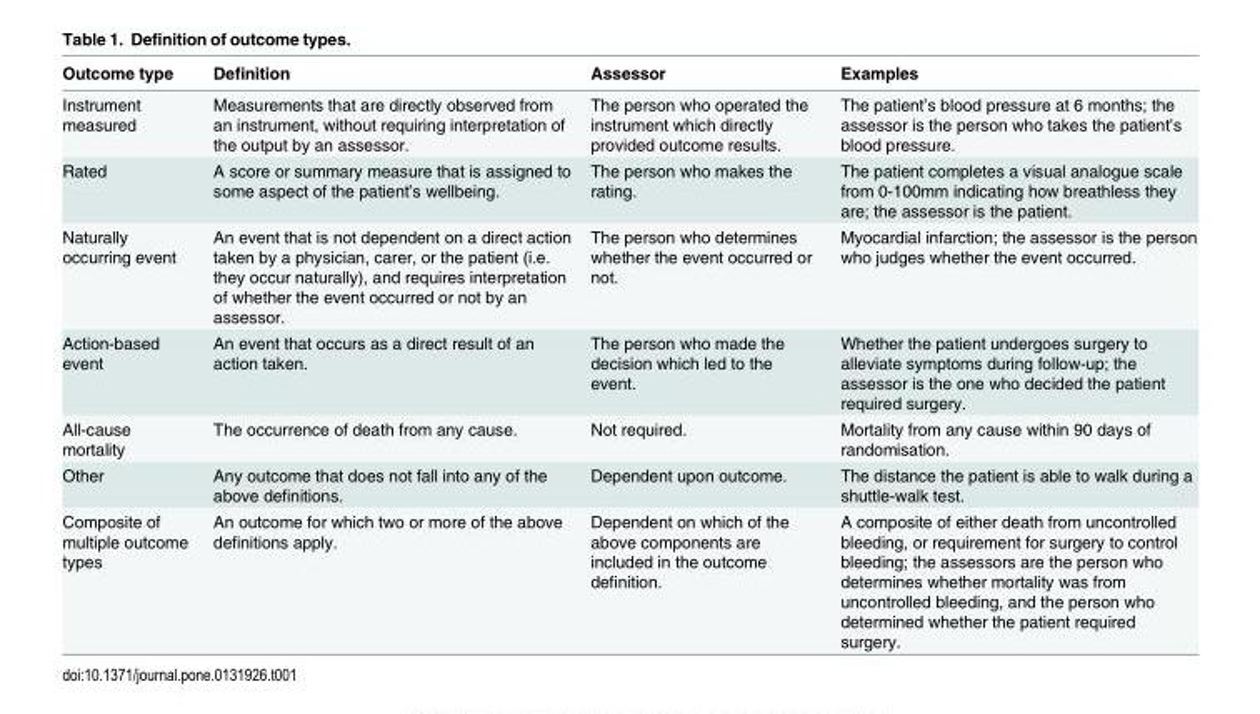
<table><thead><tr><td>Outcome type</td><td>Definition</td><td>Assessor</td><td>Examples</td></tr></thead><tbody><tr><td>Instrument measured</td><td>Measurements that are directly observed from an instrument, without requiring interpretation of the output by an assessor.</td><td>The person who operated the instrument which directly provided outcome results.</td><td>The patient’s blood pressure at 6 months; the assessor is the person who takes the patient’s blood pressure.</td></tr><tr><td>Rated</td><td>A score or summary measure that is assigned to some aspect of the patient’s wellbeing.</td><td>The person who makes the rating.</td><td>The patient completes a visual analogue scale from 0-100mm indicating how breathless they are; the assessor is the patient.</td></tr><tr><td>Naturally occurring event</td><td>An event that is not dependent on a direct action taken by a physician, carer, or the patient (i.e. they occur naturally), and requires interpretation of whether the event occurred or not by an assessor.</td><td>The person who determines whether the event occurred or not.</td><td>Myocardial infarction; the assessor is the person who judges whether the event occurred.</td></tr><tr><td>Action-based event</td><td>An event that occurs as a direct result of an action taken.</td><td>The person who made the decision which led to the event.</td><td>Whether the patient undergoes surgery to alleviate symptoms during follow-up; the assessor is the one who decided the patient required surgery.</td></tr><tr><td>All-cause mortality</td><td>The occurrence of death from any cause.</td><td>Not required.</td><td>Mortality from any cause within 90 days of randomisation.</td></tr><tr><td>Other</td><td>Any outcome that does not fall into any of the above definitions.</td><td>Dependent upon outcome.</td><td>The distance the patient is able to walk during a shuttle-walk test.</td></tr><tr><td>Composite of multiple outcome types</td><td>An outcome for which two or more of the above definitions apply.</td><td>Dependent on which of the above components are included in the outcome definition.</td><td>A composite of either death from uncontrolled bleeding, or requirement for surgery to control bleeding; the assessors are the person who determines whether mortality was from uncontrolled bleeding, and the person who determined whether the patient required surgery.</td></tr></tbody></table>